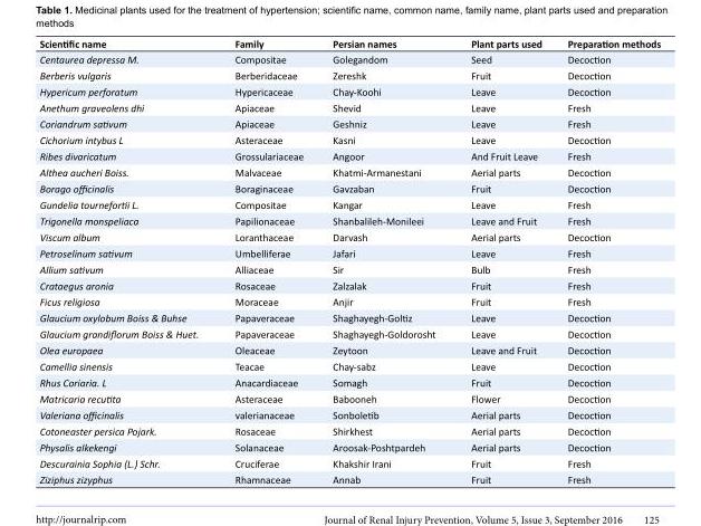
<table><tbody><tr><td>Scientific name</td><td>Family</td><td>Persian names</td><td>Plant parts used</td><td>Preparation methods</td></tr><tr><td>Centaurea depressa M.</td><td>Compositae</td><td>Golegandom</td><td>Seed</td><td>Decoction</td></tr><tr><td>Berberis vulgaris</td><td>Berberidaceae</td><td>Zereshk</td><td>Fruit</td><td>Decoction</td></tr><tr><td>Hypericum perforatum</td><td>Hypericaceae</td><td>Chay-Koohi</td><td>Leave</td><td>Decoction</td></tr><tr><td>Anethum graveolens dhi</td><td>Apiaceae</td><td>Shevid</td><td>Leave</td><td>Fresh</td></tr><tr><td>Coriandrum sativum</td><td>Apiaceae</td><td>Geshniz</td><td>Leave</td><td>Fresh</td></tr><tr><td>Cichorium intybus L</td><td>Asteraceae</td><td>Kasni</td><td>Leave</td><td>Decoction</td></tr><tr><td>Ribes divaricatum</td><td>Grossulariaceae</td><td>Angoor</td><td>And Fruit Leave</td><td>Fresh</td></tr><tr><td>Althea aucheri Boiss.</td><td>Malvaceae</td><td>Khatmi-Armanestani</td><td>Aerial parts</td><td>Decoction</td></tr><tr><td>Borago officinalis</td><td>Boraginaceae</td><td>Gavzaban</td><td>Fruit</td><td>Decoction</td></tr><tr><td>Gundelia tournefortii L.</td><td>Compositae</td><td>Kangar</td><td>Leave</td><td>Fresh</td></tr><tr><td>Trigonella monspeliaca</td><td>Papilionaceae</td><td>Shanbalileh-Monileei</td><td>Leave and Fruit</td><td>Fresh</td></tr><tr><td>Viscum album</td><td>Loranthaceae</td><td>Darvash</td><td>Aerial parts</td><td>Decoction</td></tr><tr><td>Petroselinum sativum</td><td>Umbelliferae</td><td>Jafari</td><td>Leave</td><td>Fresh</td></tr><tr><td>Allium sativum</td><td>Alliaceae</td><td>Sir</td><td>Bulb</td><td>Fresh</td></tr><tr><td>Crataegus aronia</td><td>Rosaceae</td><td>Zalzalak</td><td>Fruit</td><td>Fresh</td></tr><tr><td>Ficus religiosa</td><td>Moraceae</td><td>Anjir</td><td>Fruit</td><td>Fresh</td></tr><tr><td>Glaucium oxylobum Boiss &amp; Buhse</td><td>Papaveraceae</td><td>Shaghayegh-Goltiz</td><td>Leave</td><td>Decoction</td></tr><tr><td>Glaucium grandiflorum Boiss &amp; Huet.</td><td>Papaveraceae</td><td>Shaghayegh-Goldorosht</td><td>Leave</td><td>Decoction</td></tr><tr><td>Olea europaea</td><td>Oleaceae</td><td>Zeytoon</td><td>Leave and Fruit</td><td>Decoction</td></tr><tr><td>Camellia sinensis</td><td>Teacae</td><td>Chay-sabz</td><td>Leave</td><td>Decoction</td></tr><tr><td>Rhus Coriaria. L</td><td>Anacardiaceae</td><td>Somagh</td><td>Fruit</td><td>Decoction</td></tr><tr><td>Matricaria recutita</td><td>Asteraceae</td><td>Babooneh</td><td>Flower</td><td>Decoction</td></tr><tr><td>Valeriana officinalis</td><td>valerianaceae</td><td>Sonboletib</td><td>Aerial parts</td><td>Decoction</td></tr><tr><td>Cotoneaster persica Pojark.</td><td>Rosaceae</td><td>Shirkhest</td><td>Aerial parts</td><td>Decoction</td></tr><tr><td>Physalis alkekengi</td><td>Solanaceae</td><td>Aroosak-Poshtpardeh</td><td>Aerial parts</td><td>Decoction</td></tr><tr><td>Descurainia Sophia (L.) Schr.</td><td>Cruciferae</td><td>Khakshir Irani</td><td>Fruit</td><td>Fresh</td></tr><tr><td>Ziziphus zizyphus</td><td>Rhamnaceae</td><td>Annab</td><td>Fruit</td><td>Fresh</td></tr></tbody></table>